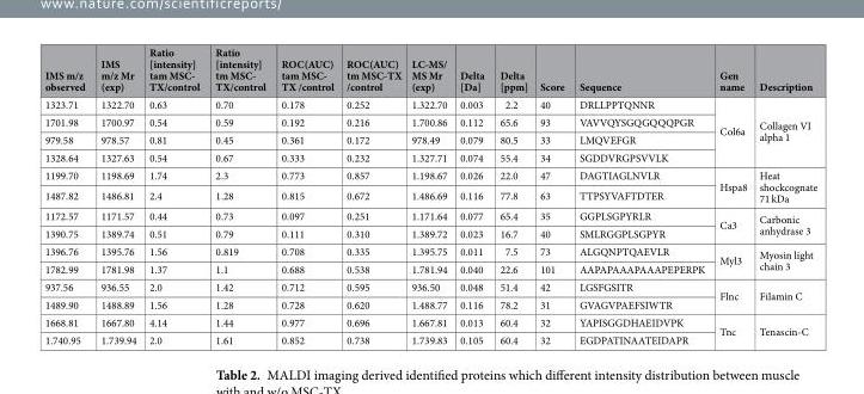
<table><thead><tr><td>IMS m/z observed</td><td>IMS m/z Mr (exp)</td><td>Ratio [intensity] tam MSC- TX/control</td><td>Ratio [intensity] tm MSC- TX/control</td><td>ROC(AUC) tam MSC- TX /control</td><td>ROC(AUC) tm MSC-TX /control</td><td>LC-MS/ MS Mr (exp)</td><td>Delta [Da]</td><td>Delta [ppm]</td><td>Score</td><td>Sequence</td><td>Gen name</td><td>Description</td></tr></thead><tbody><tr><td>1323.71</td><td>1322.70</td><td>0.63</td><td>0.70</td><td>0.178</td><td>0.252</td><td>1.322.70</td><td>0.003</td><td>2.2</td><td>40</td><td>DRLLPPTQNNR</td><td rowspan="4">Col6a</td><td rowspan="4">Collagen VI alpha 1</td></tr><tr><td>1701.98</td><td>1700.97</td><td>0.54</td><td>0.59</td><td>0.192</td><td>0.216</td><td>1.700.86</td><td>0.112</td><td>65.6</td><td>93</td><td>VAVVQYSGQGQQQPGR</td></tr><tr><td>979.58</td><td>978.57</td><td>0.81</td><td>0.45</td><td>0.361</td><td>0.172</td><td>978.49</td><td>0.079</td><td>80.5</td><td>33</td><td>LMQVEFGR</td></tr><tr><td>1328.64</td><td>1327.63</td><td>0.54</td><td>0.67</td><td>0.333</td><td>0.232</td><td>1.327.71</td><td>0.074</td><td>55.4</td><td>34</td><td>SGDDVRGPSVVLK</td></tr><tr><td>1199.70</td><td>1198.69</td><td>1.74</td><td>2.3</td><td>0.773</td><td>0.857</td><td>1.198.67</td><td>0.026</td><td>22.0</td><td>47</td><td>DAGTIAGLNVLR</td><td rowspan="2">Hspa8</td><td rowspan="2">Heat shockcognate 71 kDa</td></tr><tr><td>1487.82</td><td>1486.81</td><td>2.4</td><td>1.28</td><td>0.815</td><td>0.672</td><td>1.486.69</td><td>0.116</td><td>77.8</td><td>63</td><td>TTPSYVAFTDTER</td></tr><tr><td>1172.57</td><td>1171.57</td><td>0.44</td><td>0.73</td><td>0.097</td><td>0.251</td><td>1.171.64</td><td>0.077</td><td>65.4</td><td>35</td><td>GGPLSGPYRLR</td><td rowspan="2">Ca3</td><td rowspan="2">Carbonic anhydrase 3</td></tr><tr><td>1390.75</td><td>1389.74</td><td>0.51</td><td>0.79</td><td>0.111</td><td>0.310</td><td>1.389.72</td><td>0.023</td><td>16.7</td><td>40</td><td>SMLRGGPLSGPYR</td></tr><tr><td>1396.76</td><td>1395.76</td><td>1.56</td><td>0.819</td><td>0.708</td><td>0.335</td><td>1.395.75</td><td>0.011</td><td>7.5</td><td>73</td><td>ALGQNPTQAEVLR</td><td rowspan="2">Myl3</td><td rowspan="2">Myosin light chain 3</td></tr><tr><td>1782.99</td><td>1781.98</td><td>1.37</td><td>1.1</td><td>0.688</td><td>0.538</td><td>1.781.94</td><td>0.040</td><td>22.6</td><td>101</td><td>AAPAPAAAPAAAPEPERPK</td></tr><tr><td>937.56</td><td>936.55</td><td>2.0</td><td>1.42</td><td>0.712</td><td>0.595</td><td>936.50</td><td>0.048</td><td>51.4</td><td>42</td><td>LGSFGSITR</td><td rowspan="2">Flnc</td><td rowspan="2">Filamin C</td></tr><tr><td>1489.90</td><td>1488.89</td><td>1.56</td><td>1.28</td><td>0.728</td><td>0.620</td><td>1.488.77</td><td>0.116</td><td>78.2</td><td>31</td><td>GVAGVPAEFSIWTR</td></tr><tr><td>1668.81</td><td>1667.80</td><td>4.14</td><td>1.44</td><td>0.977</td><td>0.696</td><td>1.667.81</td><td>0.013</td><td>60.4</td><td>32</td><td>YAPISGGDHAEIDVPK</td><td rowspan="2">Tnc</td><td rowspan="2">Tenascin-C</td></tr><tr><td>1.740.95</td><td>1.739.94</td><td>2.0</td><td>1.61</td><td>0.852</td><td>0.738</td><td>1.739.83</td><td>0.105</td><td>60.4</td><td>32</td><td>EGDPATINAATEIDAPR</td></tr></tbody></table>